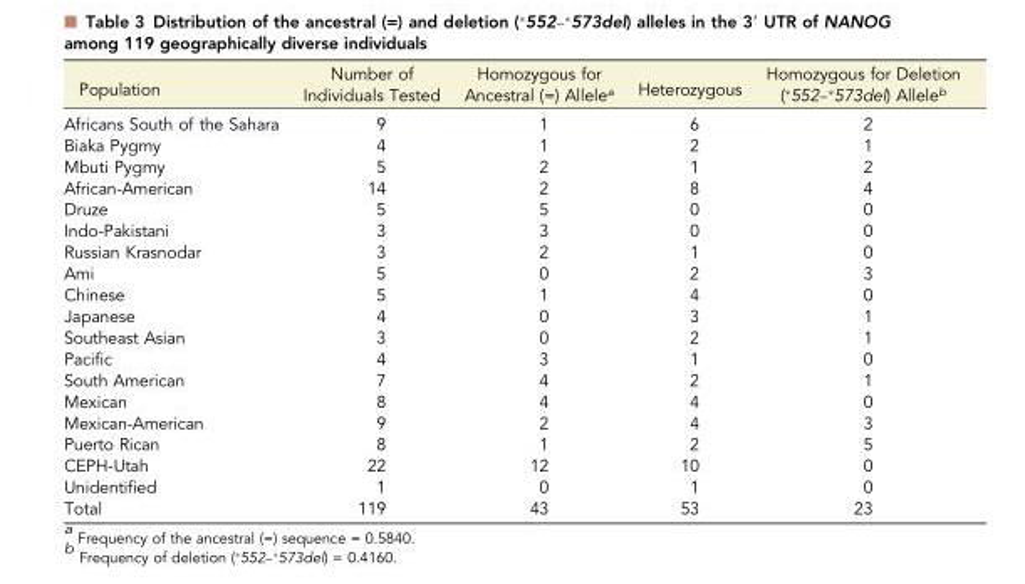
<table><thead><tr><td>Population</td><td>Number of Individuals Tested</td><td>Homozygous for Ancestral (=) Allele<sup>a</sup></td><td>Heterozygous</td><td>Homozygous for Deletion (*552–*573del) Allele<sup>b</sup></td></tr></thead><tbody><tr><td>Africans South of the Sahara</td><td>9</td><td>1</td><td>6</td><td>2</td></tr><tr><td>Biaka Pygmy</td><td>4</td><td>1</td><td>2</td><td>1</td></tr><tr><td>Mbuti Pygmy</td><td>5</td><td>2</td><td>1</td><td>2</td></tr><tr><td>African-American</td><td>14</td><td>2</td><td>8</td><td>4</td></tr><tr><td>Druze</td><td>5</td><td>5</td><td>0</td><td>0</td></tr><tr><td>Indo-Pakistani</td><td>3</td><td>3</td><td>0</td><td>0</td></tr><tr><td>Russian Krasnodar</td><td>3</td><td>2</td><td>1</td><td>0</td></tr><tr><td>Ami</td><td>5</td><td>0</td><td>2</td><td>3</td></tr><tr><td>Chinese</td><td>5</td><td>1</td><td>4</td><td>0</td></tr><tr><td>Japanese</td><td>4</td><td>0</td><td>3</td><td>1</td></tr><tr><td>Southeast Asian</td><td>3</td><td>0</td><td>2</td><td>1</td></tr><tr><td>Pacific</td><td>4</td><td>3</td><td>1</td><td>0</td></tr><tr><td>South American</td><td>7</td><td>4</td><td>2</td><td>1</td></tr><tr><td>Mexican</td><td>8</td><td>4</td><td>4</td><td>0</td></tr><tr><td>Mexican-American</td><td>9</td><td>2</td><td>4</td><td>3</td></tr><tr><td>Puerto Rican</td><td>8</td><td>1</td><td>2</td><td>5</td></tr><tr><td>CEPH-Utah</td><td>22</td><td>12</td><td>10</td><td>0</td></tr><tr><td>Unidentified</td><td>1</td><td>0</td><td>1</td><td>0</td></tr><tr><td>Total</td><td>119</td><td>43</td><td>53</td><td>23</td></tr></tbody></table>